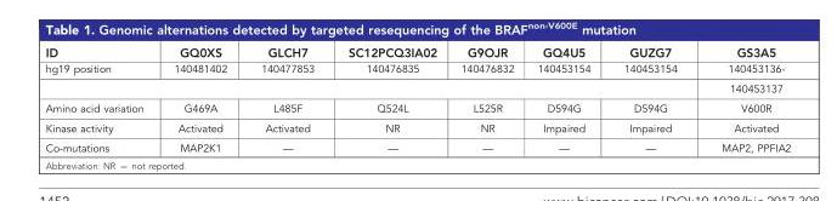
<table><thead><tr><td>ID</td><td>GQ0XS</td><td>GLCH7</td><td>SC12PCQ3IA02</td><td>G9OJR</td><td>GQ4U5</td><td>GUZG7</td><td>GS3A5</td></tr></thead><tbody><tr><td rowspan="2">hg19 position</td><td>140481402</td><td>140477853</td><td>140476835</td><td>140476832</td><td>140453154</td><td>140453154</td><td>140453136-</td></tr><tr><td></td><td></td><td></td><td></td><td></td><td></td><td>140453137</td></tr><tr><td>Amino acid variation</td><td>G469A</td><td>L485F</td><td>Q524L</td><td>L525R</td><td>D594G</td><td>D594G</td><td>V600R</td></tr><tr><td>Kinase activity</td><td>Activated</td><td>Activated</td><td>NR</td><td>NR</td><td>Impaired</td><td>Impaired</td><td>Activated</td></tr><tr><td>Co-mutations</td><td>MAP2K1</td><td>—</td><td>—</td><td>—</td><td>—</td><td>—</td><td>MAP2, PPFIA2</td></tr></tbody></table>